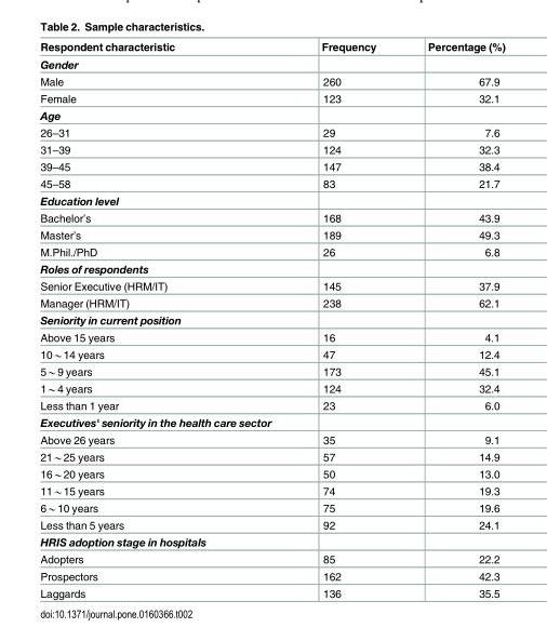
<table><thead><tr><td>Respondent characteristic</td><td>Frequency</td><td>Percentage (%)</td></tr></thead><tbody><tr><td colspan="3">Gender</td></tr><tr><td>Male</td><td>260</td><td>67.9</td></tr><tr><td>Female</td><td>123</td><td>32.1</td></tr><tr><td colspan="3">Age</td></tr><tr><td>26–31</td><td>29</td><td>7.6</td></tr><tr><td>31–39</td><td>124</td><td>32.3</td></tr><tr><td>39–45</td><td>147</td><td>38.4</td></tr><tr><td>45–58</td><td>83</td><td>21.7</td></tr><tr><td colspan="3">Education level</td></tr><tr><td>Bachelor’s</td><td>168</td><td>43.9</td></tr><tr><td>Master’s</td><td>189</td><td>49.3</td></tr><tr><td>M.Phil./PhD</td><td>26</td><td>6.8</td></tr><tr><td colspan="3">Roles of respondents</td></tr><tr><td>Senior Executive (HRM/IT)</td><td>145</td><td>37.9</td></tr><tr><td>Manager (HRM/IT)</td><td>238</td><td>62.1</td></tr><tr><td colspan="3">Seniority in current position</td></tr><tr><td>Above 15 years</td><td>16</td><td>4.1</td></tr><tr><td>10*14 years</td><td>47</td><td>12.4</td></tr><tr><td>5*9 years</td><td>173</td><td>45.1</td></tr><tr><td>1*4 years</td><td>124</td><td>32.4</td></tr><tr><td>Less than 1 year</td><td>23</td><td>6.0</td></tr><tr><td colspan="3">Executives&#x27; seniority in the health care sector</td></tr><tr><td>Above 26 years</td><td>35</td><td>9.1</td></tr><tr><td>21*25 years</td><td>57</td><td>14.9</td></tr><tr><td>16*20 years</td><td>50</td><td>13.0</td></tr><tr><td>11*15 years</td><td>74</td><td>19.3</td></tr><tr><td>6*10 years</td><td>75</td><td>19.6</td></tr><tr><td>Less than 5 years</td><td>92</td><td>24.1</td></tr><tr><td colspan="3">HRIS adoption stage in hospitals</td></tr><tr><td>Adopters</td><td>85</td><td>22.2</td></tr><tr><td>Prospectors</td><td>162</td><td>42.3</td></tr><tr><td>Laggards</td><td>136</td><td>35.5</td></tr></tbody></table>